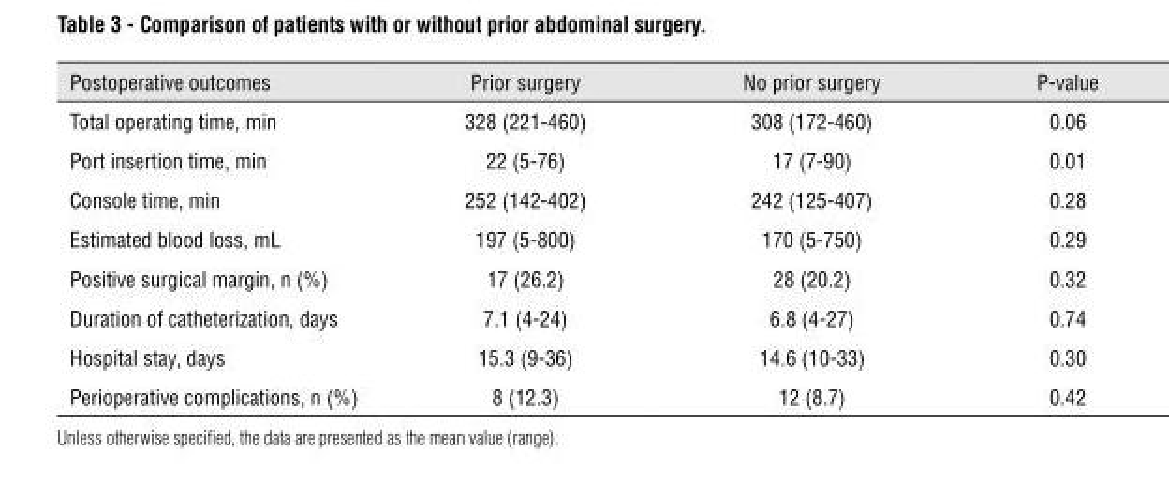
<table><thead><tr><td>Postoperative outcomes</td><td>Prior surgery</td><td>No prior surgery</td><td>P-value</td></tr></thead><tbody><tr><td>Total operating time, min</td><td>328 (221-460)</td><td>308 (172-460)</td><td>0.06</td></tr><tr><td>Port insertion time, min</td><td>22 (5-76)</td><td>17 (7-90)</td><td>0.01</td></tr><tr><td>Console time, min</td><td>252 (142-402)</td><td>242 (125-407)</td><td>0.28</td></tr><tr><td>Estimated blood loss, mL</td><td>197 (5-800)</td><td>170 (5-750)</td><td>0.29</td></tr><tr><td>Positive surgical margin, n (%)</td><td>17 (26.2)</td><td>28 (20.2)</td><td>0.32</td></tr><tr><td>Duration of catheterization, days</td><td>7.1 (4-24)</td><td>6.8 (4-27)</td><td>0.74</td></tr><tr><td>Hospital stay, days</td><td>15.3 (9-36)</td><td>14.6 (10-33)</td><td>0.30</td></tr><tr><td>Perioperative complications, n (%)</td><td>8 (12.3)</td><td>12 (8.7)</td><td>0.42</td></tr></tbody></table>